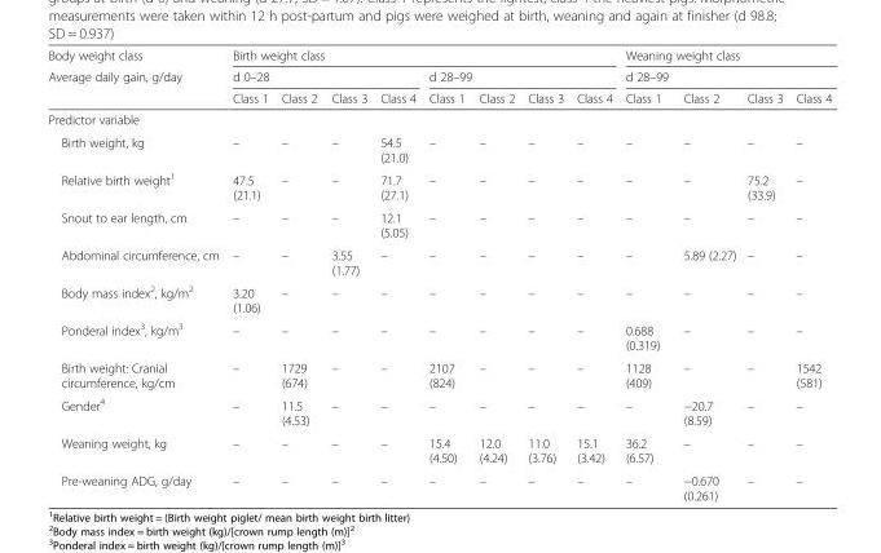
<table><thead><tr><td rowspan="3">Body weight class Average daily gain, g/day</td><td colspan="8">Birth weight class</td><td rowspan="2" colspan="4">Weaning weight class d 28–99</td></tr><tr><td colspan="4">d 0–28</td><td colspan="4">d 28–99</td></tr><tr><td>Class 1</td><td>Class 2</td><td>Class 3</td><td>Class 4</td><td>Class 1</td><td>Class 2</td><td>Class 3</td><td>Class 4</td><td>Class 1</td><td>Class 2</td><td>Class 3</td><td>Class 4</td></tr></thead><tbody><tr><td colspan="13">Predictor variable</td></tr><tr><td>Birth weight, kg</td><td>–</td><td>–</td><td>–</td><td>54.5 (21.0)</td><td>–</td><td>–</td><td>–</td><td>–</td><td>–</td><td>–</td><td>–</td><td>–</td></tr><tr><td>Relative birth weight<sup>1</sup></td><td>47.5 (21.1)</td><td>–</td><td>–</td><td>71.7 (27.1)</td><td>–</td><td>–</td><td>–</td><td>–</td><td>–</td><td>–</td><td>75.2 (33.9)</td><td>–</td></tr><tr><td>Snout to ear length, cm</td><td>–</td><td>–</td><td>–</td><td>12.1 (5.05)</td><td>–</td><td>–</td><td>–</td><td>–</td><td>–</td><td>–</td><td>–</td><td>–</td></tr><tr><td>Abdominal circumference, cm</td><td>–</td><td>–</td><td>3.55 (1.77)</td><td>–</td><td>–</td><td>–</td><td>–</td><td>–</td><td>–</td><td>5.89 (2.27)</td><td>–</td><td>–</td></tr><tr><td>Body mass index<sup>2</sup>, kg/m<sup>2</sup></td><td>3.20 (1.06)</td><td>–</td><td>–</td><td>–</td><td>–</td><td>–</td><td>–</td><td>–</td><td>–</td><td>–</td><td>–</td><td>–</td></tr><tr><td>Ponderal index<sup>3</sup>, kg/m<sup>3</sup></td><td>–</td><td>–</td><td>–</td><td>–</td><td>–</td><td>–</td><td>–</td><td>–</td><td>0.688 (0.319)</td><td>–</td><td>–</td><td>–</td></tr><tr><td>Birth weight: Cranial circumference, kg/cm</td><td>–</td><td>1729 (674)</td><td>–</td><td>–</td><td>2107 (824)</td><td>–</td><td>–</td><td>–</td><td>1128 (409)</td><td>–</td><td>–</td><td>1542 (581)</td></tr><tr><td>Gender<sup>4</sup></td><td>–</td><td>11.5 (4.53)</td><td>–</td><td>–</td><td>–</td><td>–</td><td>–</td><td>–</td><td>–</td><td>−20.7 (8.59)</td><td>–</td><td>–</td></tr><tr><td>Weaning weight, kg</td><td>–</td><td>–</td><td>–</td><td>–</td><td>15.4 (4.50)</td><td>12.0 (4.24)</td><td>11.0 (3.76)</td><td>15.1 (3.42)</td><td>36.2 (6.57)</td><td>–</td><td>–</td><td>–</td></tr><tr><td>Pre-weaning ADG, g/day</td><td>–</td><td>–</td><td>–</td><td>–</td><td>–</td><td>–</td><td>–</td><td>–</td><td>–</td><td>−0.670 (0.261)</td><td>–</td><td>–</td></tr></tbody></table>